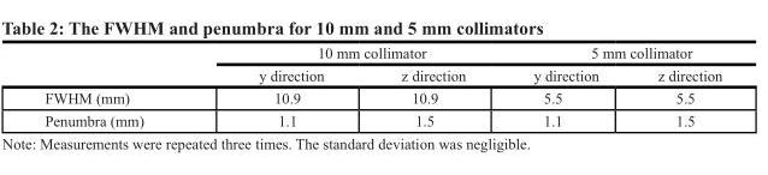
<table><thead><tr><td rowspan="2"></td><td colspan="2">10 mm collimator</td><td colspan="2">5 mm collimator</td></tr><tr><td>y direction</td><td>z direction</td><td>y direction</td><td>z direction</td></tr></thead><tbody><tr><td>FWHM (mm)</td><td>10.9</td><td>10.9</td><td>5.5</td><td>5.5</td></tr><tr><td>Penumbra (mm)</td><td>1.1</td><td>1.5</td><td>1.1</td><td>1.5</td></tr></tbody></table>